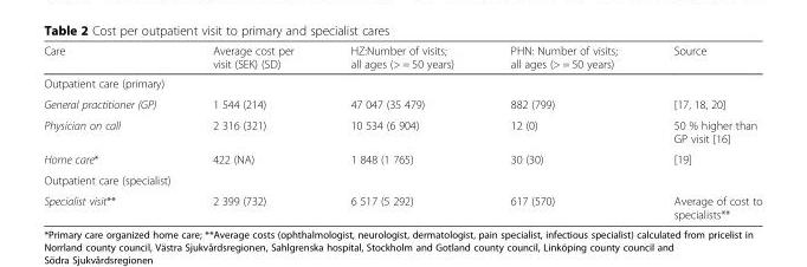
<table><thead><tr><td>Care</td><td>Average cost per visit (SEK) (SD)</td><td>HZ:Number of visits; all ages (&gt; = 50 years)</td><td>PHN: Number of visits; all ages (&gt; = 50 years)</td><td>Source</td></tr></thead><tbody><tr><td colspan="5">Outpatient care (primary)</td></tr><tr><td>General practitioner (GP)</td><td>1 544 (214)</td><td>47 047 (35 479)</td><td>882 (799)</td><td>[17, 18, 20]</td></tr><tr><td>Physician on call</td><td>2 316 (321)</td><td>10 534 (6 904)</td><td>12 (0)</td><td>50 % higher than GP visit [16]</td></tr><tr><td>Home care*</td><td>422 (NA)</td><td>1 848 (1 765)</td><td>30 (30)</td><td>[19]</td></tr><tr><td colspan="5">Outpatient care (specialist)</td></tr><tr><td>Specialist visit**</td><td>2 399 (732)</td><td>6 517 (5 292)</td><td>617 (570)</td><td>Average of cost to specialists**</td></tr></tbody></table>